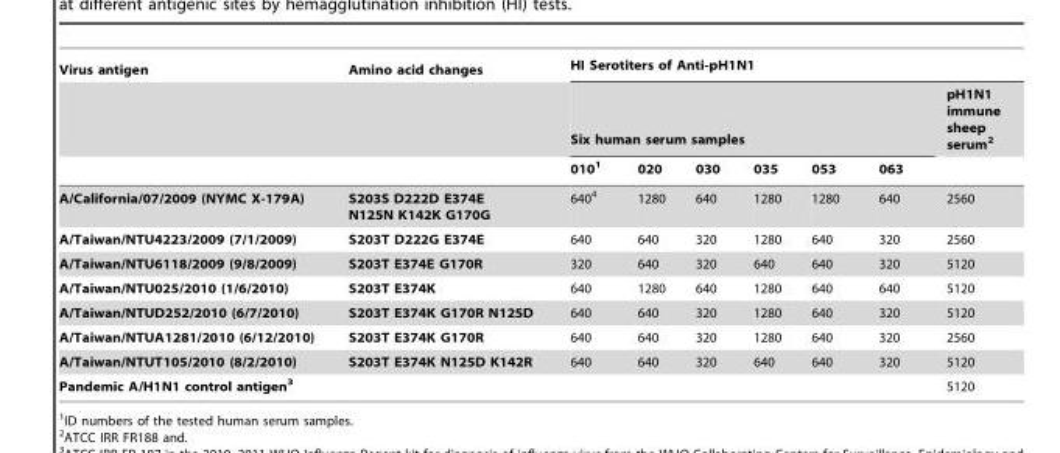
<table><thead><tr><td rowspan="3">Virus antigen</td><td rowspan="3">Amino acid changes</td><td colspan="7">HI Serotiters of Anti-pH1N1</td></tr><tr><td colspan="6">Six human serum samples</td><td rowspan="2">pH1N1 immune sheep serum<sup>2</sup></td></tr><tr><td>010<sup>1</sup></td><td>020</td><td>030</td><td>035</td><td>053</td><td>063</td></tr></thead><tbody><tr><td>A/California/07/2009 (NYMC X-179A)</td><td>S203S D222D E374E N125N K142K G170G</td><td>640<sup>4</sup></td><td>1280</td><td>640</td><td>1280</td><td>1280</td><td>640</td><td>2560</td></tr><tr><td>A/Taiwan/NTU4223/2009 (7/1/2009)</td><td>S203T D222G E374E</td><td>640</td><td>640</td><td>320</td><td>1280</td><td>640</td><td>320</td><td>2560</td></tr><tr><td>A/Taiwan/NTU6118/2009 (9/8/2009)</td><td>S203T E374E G170R</td><td>320</td><td>640</td><td>320</td><td>640</td><td>640</td><td>320</td><td>5120</td></tr><tr><td>A/Taiwan/NTU025/2010 (1/6/2010)</td><td>S203T E374K</td><td>640</td><td>1280</td><td>640</td><td>1280</td><td>640</td><td>640</td><td>5120</td></tr><tr><td>A/Taiwan/NTUD252/2010 (6/7/2010)</td><td>S203T E374K G170R N125D</td><td>640</td><td>640</td><td>320</td><td>1280</td><td>640</td><td>320</td><td>5120</td></tr><tr><td>A/Taiwan/NTUA1281/2010 (6/12/2010)</td><td>S203T E374K G170R</td><td>640</td><td>640</td><td>320</td><td>1280</td><td>640</td><td>320</td><td>2560</td></tr><tr><td>A/Taiwan/NTUT105/2010 (8/2/2010)</td><td>S203T E374K N125D K142R</td><td>640</td><td>640</td><td>320</td><td>640</td><td>640</td><td>320</td><td>5120</td></tr><tr><td>Pandemic A/H1N1 control antigen3</td><td></td><td></td><td></td><td></td><td></td><td></td><td></td><td>5120</td></tr></tbody></table>